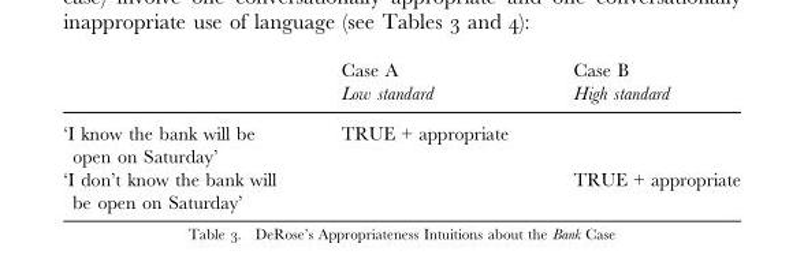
<table><thead><tr><td rowspan="2"></td><td rowspan="2">Case A Low standard</td><td rowspan="2">Case B High standard</td></tr><tr></tr></thead><tbody><tr><td>‘I know the bank will be open on Saturday’</td><td>TRUE + appropriate</td><td></td></tr><tr><td>‘I don’t know the bank will be open on Saturday’</td><td></td><td>TRUE + appropriate</td></tr></tbody></table>